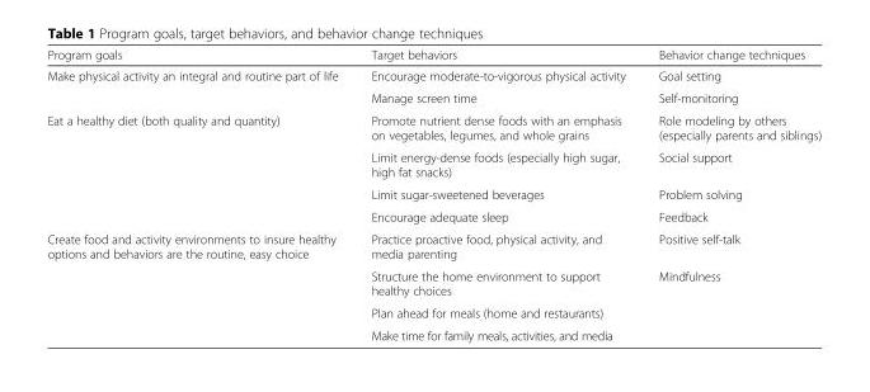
<table><thead><tr><td>Program goals</td><td>Target behaviors</td><td>Behavior change techniques</td></tr></thead><tbody><tr><td rowspan="2">Make physical activity an integral and routine part of life</td><td>Encourage moderate-to-vigorous physical activity</td><td>Goal setting</td></tr><tr><td>Manage screen time</td><td>Self-monitoring</td></tr><tr><td rowspan="4">Eat a healthy diet (both quality and quantity)</td><td>Promote nutrient dense foods with an emphasis on vegetables, legumes, and whole grains</td><td>Role modeling by others (especially parents and siblings)</td></tr><tr><td>Limit energy-dense foods (especially high sugar, high fat snacks)</td><td>Social support</td></tr><tr><td>Limit sugar-sweetened beverages</td><td>Problem solving</td></tr><tr><td>Encourage adequate sleep</td><td>Feedback</td></tr><tr><td rowspan="4">Create food and activity environments to insure healthy options and behaviors are the routine, easy choice</td><td>Practice proactive food, physical activity, and media parenting</td><td>Positive self-talk</td></tr><tr><td>Structure the home environment to support healthy choices</td><td>Mindfulness</td></tr><tr><td>Plan ahead for meals (home and restaurants)</td><td></td></tr><tr><td>Make time for family meals, activities, and media</td><td></td></tr></tbody></table>